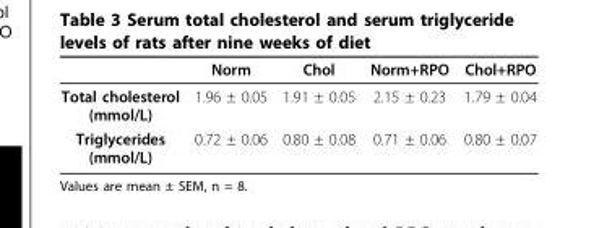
<table><thead><tr><td></td><td>Norm</td><td>Chol</td><td>Norm+RPO</td><td>Chol+RPO</td></tr></thead><tbody><tr><td>Total cholesterol (mmol/L)</td><td>1.96 ± 0.05</td><td>1.91 ± 0.05</td><td>2.15 ± 0.23</td><td>1.79 ± 0.04</td></tr><tr><td>Triglycerides (mmol/L)</td><td>0.72 ± 0.06</td><td>0.80 ± 0.08</td><td>0.71 ± 0.06</td><td>0.80 ± 0.07</td></tr></tbody></table>